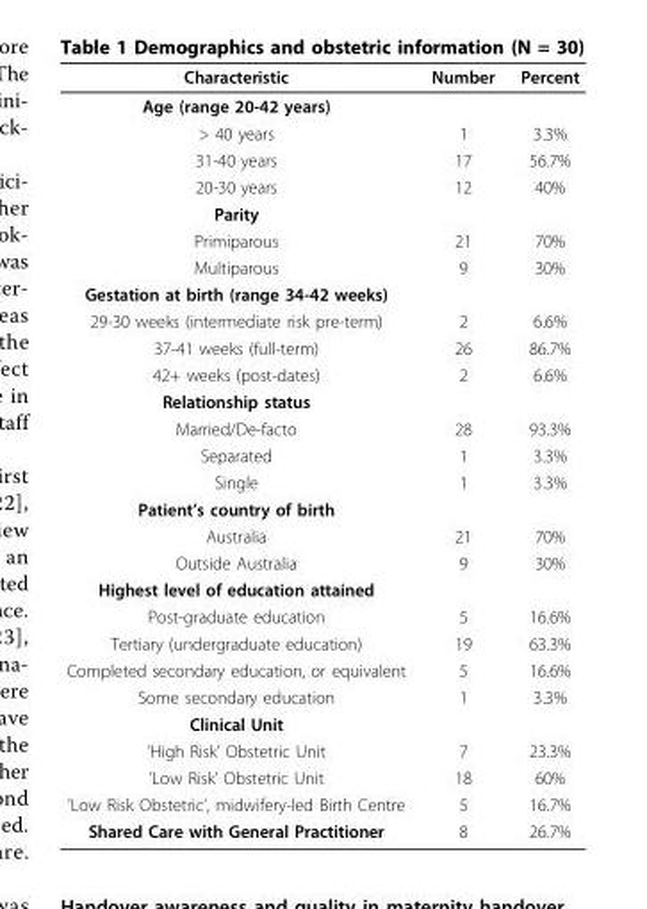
<table><thead><tr><td>Characteristic</td><td>Number</td><td>Percent</td></tr></thead><tbody><tr><td colspan="3">Age (range 20-42 years)</td></tr><tr><td>&gt; 40 years</td><td>1</td><td>3.3%</td></tr><tr><td>31-40 years</td><td>17</td><td>56.7%</td></tr><tr><td>20-30 years</td><td>12</td><td>40%</td></tr><tr><td colspan="3">Parity</td></tr><tr><td>Primiparous</td><td>21</td><td>70%</td></tr><tr><td>Multiparous</td><td>9</td><td>30%</td></tr><tr><td colspan="3">Gestation at birth (range 34-42 weeks)</td></tr><tr><td>29-30 weeks (intermediate risk pre-term)</td><td>2</td><td>6.6%</td></tr><tr><td>37-41 weeks (full-term)</td><td>26</td><td>86.7%</td></tr><tr><td>42+ weeks (post-dates)</td><td>2</td><td>6.6%</td></tr><tr><td colspan="3">Relationship status</td></tr><tr><td>Married/De-facto</td><td>28</td><td>93.3%</td></tr><tr><td>Separated</td><td>1</td><td>3.3%</td></tr><tr><td>Single</td><td>1</td><td>3.3%</td></tr><tr><td colspan="3">Patient’s country of birth</td></tr><tr><td>Australia</td><td>21</td><td>70%</td></tr><tr><td>Outside Australia</td><td>9</td><td>30%</td></tr><tr><td colspan="3">Highest level of education attained</td></tr><tr><td>Post-graduate education</td><td>5</td><td>16.6%</td></tr><tr><td>Tertiary (undergraduate education)</td><td>19</td><td>63.3%</td></tr><tr><td>Completed secondary education, or equivalent</td><td>5</td><td>16.6%</td></tr><tr><td>Some secondary education</td><td>1</td><td>3.3%</td></tr><tr><td colspan="3">Clinical Unit</td></tr><tr><td>’High Risk’ Obstetric Unit</td><td>7</td><td>23.3%</td></tr><tr><td>’Low Risk’ Obstetric Unit</td><td>18</td><td>60%</td></tr><tr><td>’Low Risk Obstetric’, midwifery-led Birth Centre</td><td>5</td><td>16.7%</td></tr><tr><td>Shared Care with General Practitioner</td><td>8</td><td>26.7%</td></tr></tbody></table>